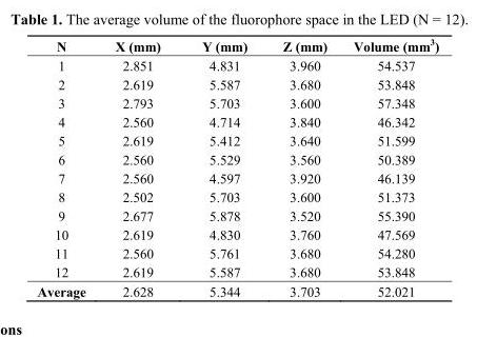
<table><thead><tr><td>N</td><td>X (mm)</td><td>Y (mm)</td><td>Z (mm)</td><td>Volume (mm<sup>3</sup>)</td></tr></thead><tbody><tr><td>1</td><td>2.851</td><td>4.831</td><td>3.960</td><td>54.537</td></tr><tr><td>2</td><td>2.619</td><td>5.587</td><td>3.680</td><td>53.848</td></tr><tr><td>3</td><td>2.793</td><td>5.703</td><td>3.600</td><td>57.348</td></tr><tr><td>4</td><td>2.560</td><td>4.714</td><td>3.840</td><td>46.342</td></tr><tr><td>5</td><td>2.619</td><td>5.412</td><td>3.640</td><td>51.599</td></tr><tr><td>6</td><td>2.560</td><td>5.529</td><td>3.560</td><td>50.389</td></tr><tr><td>7</td><td>2.560</td><td>4.597</td><td>3.920</td><td>46.139</td></tr><tr><td>8</td><td>2.502</td><td>5.703</td><td>3.600</td><td>51.373</td></tr><tr><td>9</td><td>2.677</td><td>5.878</td><td>3.520</td><td>55.390</td></tr><tr><td>10</td><td>2.619</td><td>4.830</td><td>3.760</td><td>47.569</td></tr><tr><td>11</td><td>2.560</td><td>5.761</td><td>3.680</td><td>54.280</td></tr><tr><td>12</td><td>2.619</td><td>5.587</td><td>3.680</td><td>53.848</td></tr><tr><td>Average</td><td>2.628</td><td>5.344</td><td>3.703</td><td>52.021</td></tr></tbody></table>